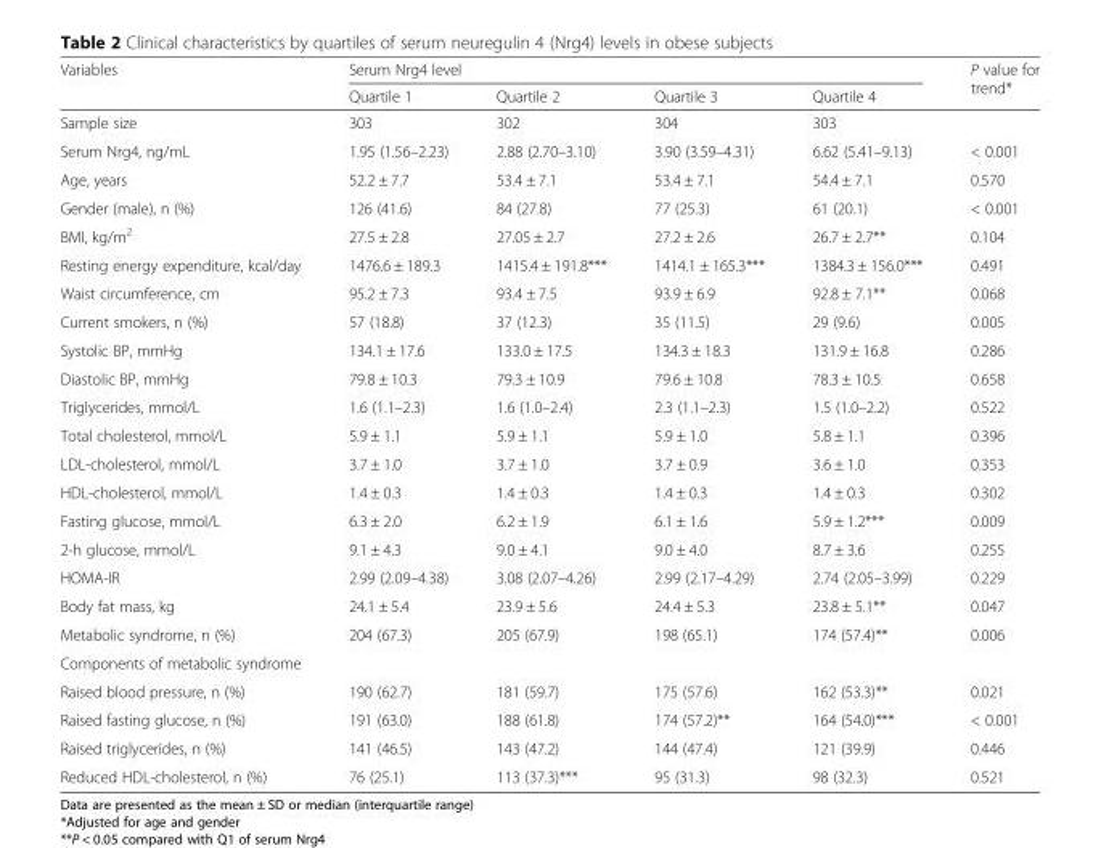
<table><thead><tr><td rowspan="2">Variables</td><td colspan="4">Serum Nrg4 level</td><td rowspan="2">P value for trend*</td></tr><tr><td>Quartile 1</td><td>Quartile 2</td><td>Quartile 3</td><td>Quartile 4</td></tr></thead><tbody><tr><td>Sample size</td><td>303</td><td>302</td><td>304</td><td>303</td><td></td></tr><tr><td>Serum Nrg4, ng/mL</td><td>1.95 (1.56–2.23)</td><td>2.88 (2.70–3.10)</td><td>3.90 (3.59–4.31)</td><td>6.62 (5.41–9.13)</td><td>&lt; 0.001</td></tr><tr><td>Age, years</td><td>52.2 ± 7.7</td><td>53.4 ± 7.1</td><td>53.4 ± 7.1</td><td>54.4 ± 7.1</td><td>0.570</td></tr><tr><td>Gender (male), n (%)</td><td>126 (41.6)</td><td>84 (27.8)</td><td>77 (25.3)</td><td>61 (20.1)</td><td>&lt; 0.001</td></tr><tr><td>BMI, kg/m<sup>2</sup></td><td>27.5 ± 2.8</td><td>27.05 ± 2.7</td><td>27.2 ± 2.6</td><td>26.7 ± 2.7**</td><td>0.104</td></tr><tr><td>Resting energy expenditure, kcal/day</td><td>1476.6 ± 189.3</td><td>1415.4 ± 191.8***</td><td>1414.1 ± 165.3***</td><td>1384.3 ± 156.0***</td><td>0.491</td></tr><tr><td>Waist circumference, cm</td><td>95.2 ± 7.3</td><td>93.4 ± 7.5</td><td>93.9 ± 6.9</td><td>92.8 ± 7.1**</td><td>0.068</td></tr><tr><td>Current smokers, n (%)</td><td>57 (18.8)</td><td>37 (12.3)</td><td>35 (11.5)</td><td>29 (9.6)</td><td>0.005</td></tr><tr><td>Systolic BP, mmHg</td><td>134.1 ± 17.6</td><td>133.0 ± 17.5</td><td>134.3 ± 18.3</td><td>131.9 ± 16.8</td><td>0.286</td></tr><tr><td>Diastolic BP, mmHg</td><td>79.8 ± 10.3</td><td>79.3 ± 10.9</td><td>79.6 ± 10.8</td><td>78.3 ± 10.5</td><td>0.658</td></tr><tr><td>Triglycerides, mmol/L</td><td>1.6 (1.1–2.3)</td><td>1.6 (1.0–2.4)</td><td>2.3 (1.1–2.3)</td><td>1.5 (1.0–2.2)</td><td>0.522</td></tr><tr><td>Total cholesterol, mmol/L</td><td>5.9 ± 1.1</td><td>5.9 ± 1.1</td><td>5.9 ± 1.0</td><td>5.8 ± 1.1</td><td>0.396</td></tr><tr><td>LDL-cholesterol, mmol/L</td><td>3.7 ± 1.0</td><td>3.7 ± 1.0</td><td>3.7 ± 0.9</td><td>3.6 ± 1.0</td><td>0.353</td></tr><tr><td>HDL-cholesterol, mmol/L</td><td>1.4 ± 0.3</td><td>1.4 ± 0.3</td><td>1.4 ± 0.3</td><td>1.4 ± 0.3</td><td>0.302</td></tr><tr><td>Fasting glucose, mmol/L</td><td>6.3 ± 2.0</td><td>6.2 ± 1.9</td><td>6.1 ± 1.6</td><td>5.9 ± 1.2***</td><td>0.009</td></tr><tr><td>2-h glucose, mmol/L</td><td>9.1 ± 4.3</td><td>9.0 ± 4.1</td><td>9.0 ± 4.0</td><td>8.7 ± 3.6</td><td>0.255</td></tr><tr><td>HOMA-IR</td><td>2.99 (2.09–4.38)</td><td>3.08 (2.07–4.26)</td><td>2.99 (2.17–4.29)</td><td>2.74 (2.05–3.99)</td><td>0.229</td></tr><tr><td>Body fat mass, kg</td><td>24.1 ± 5.4</td><td>23.9 ± 5.6</td><td>24.4 ± 5.3</td><td>23.8 ± 5.1**</td><td>0.047</td></tr><tr><td>Metabolic syndrome, n (%)</td><td>204 (67.3)</td><td>205 (67.9)</td><td>198 (65.1)</td><td>174 (57.4)**</td><td>0.006</td></tr><tr><td colspan="6">Components of metabolic syndrome</td></tr><tr><td>Raised blood pressure, n (%)</td><td>190 (62.7)</td><td>181 (59.7)</td><td>175 (57.6)</td><td>162 (53.3)**</td><td>0.021</td></tr><tr><td>Raised fasting glucose, n (%)</td><td>191 (63.0)</td><td>188 (61.8)</td><td>174 (57.2)**</td><td>164 (54.0)***</td><td>&lt; 0.001</td></tr><tr><td>Raised triglycerides, n (%)</td><td>141 (46.5)</td><td>143 (47.2)</td><td>144 (47.4)</td><td>121 (39.9)</td><td>0.446</td></tr><tr><td>Reduced HDL-cholesterol, n (%)</td><td>76 (25.1)</td><td>113 (37.3)***</td><td>95 (31.3)</td><td>98 (32.3)</td><td>0.521</td></tr></tbody></table>